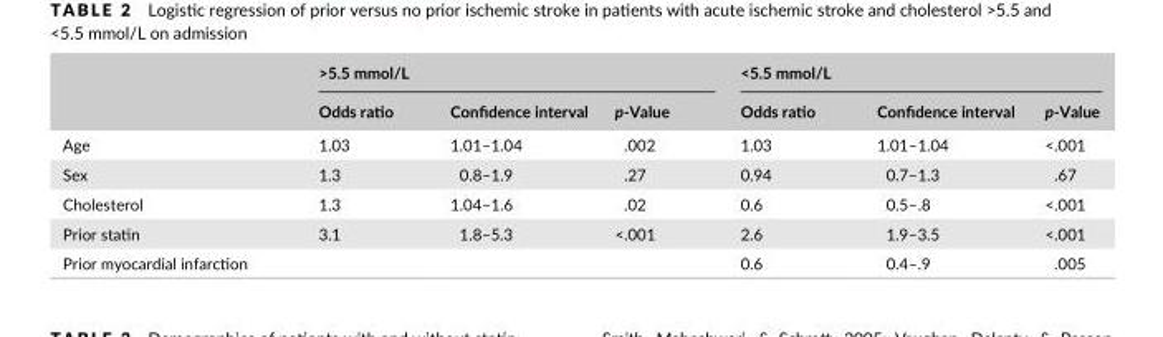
<table><thead><tr><td rowspan="2"></td><td colspan="3">&gt;5.5 mmol/L</td><td colspan="3">&lt;5.5 mmol/L</td></tr><tr><td>Odds ratio</td><td>Confidence interval</td><td>p- Value</td><td>Odds ratio</td><td>Confidence interval</td><td>p- Value</td></tr></thead><tbody><tr><td>Age</td><td>1.03</td><td>1.01–1.04</td><td>.002</td><td>1.03</td><td>1.01–1.04</td><td>&lt;.001</td></tr><tr><td>Sex</td><td>1.3</td><td>0.8–1.9</td><td>.27</td><td>0.94</td><td>0.7–1.3</td><td>.67</td></tr><tr><td>Cholesterol</td><td>1.3</td><td>1.04–1.6</td><td>.02</td><td>0.6</td><td>0.5–.8</td><td>&lt;.001</td></tr><tr><td>Prior statin</td><td>3.1</td><td>1.8–5.3</td><td>&lt;.001</td><td>2.6</td><td>1.9–3.5</td><td>&lt;.001</td></tr><tr><td>Prior myocardial infarction</td><td></td><td></td><td></td><td>0.6</td><td>0.4–.9</td><td>.005</td></tr></tbody></table>